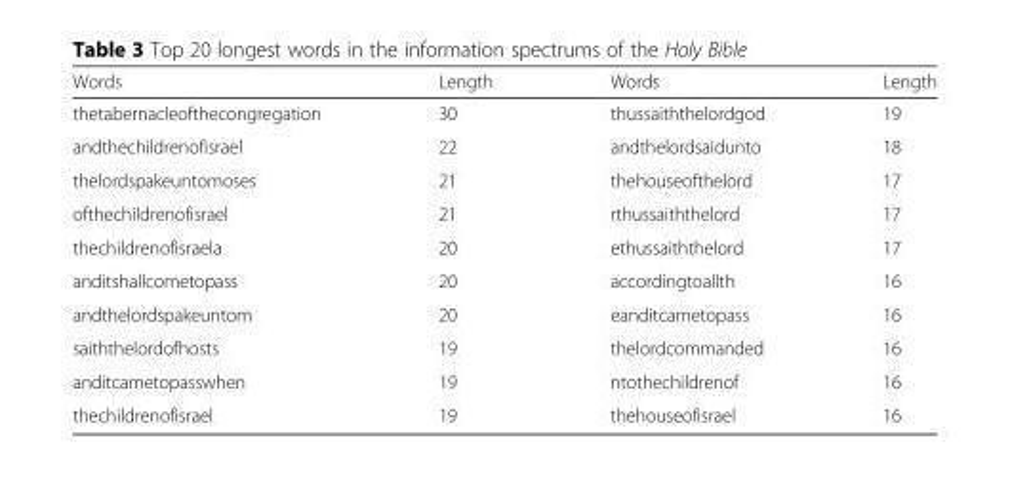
<table><thead><tr><td>Words</td><td>Length</td><td>Words</td><td>Length</td></tr></thead><tbody><tr><td>thetabernacleofthecongregation</td><td>30</td><td>thussaiththelordgod</td><td>19</td></tr><tr><td>andthechildrenofisrael</td><td>22</td><td>andthelordsaidunto</td><td>18</td></tr><tr><td>thelordspakeuntomoses</td><td>21</td><td>thehouseofthelord</td><td>17</td></tr><tr><td>ofthechildrenofisrael</td><td>21</td><td>rthussaiththelord</td><td>17</td></tr><tr><td>thechildrenofisraela</td><td>20</td><td>ethussaiththelord</td><td>17</td></tr><tr><td>anditshallcometopass</td><td>20</td><td>accordingtoallth</td><td>16</td></tr><tr><td>andthelordspakeuntom</td><td>20</td><td>eanditcametopass</td><td>16</td></tr><tr><td>saiththelordofhosts</td><td>19</td><td>thelordcommanded</td><td>16</td></tr><tr><td>anditcametopasswhen</td><td>19</td><td>ntothechildrenof</td><td>16</td></tr><tr><td>thechildrenofisrael</td><td>19</td><td>thehouseofisrael</td><td>16</td></tr></tbody></table>